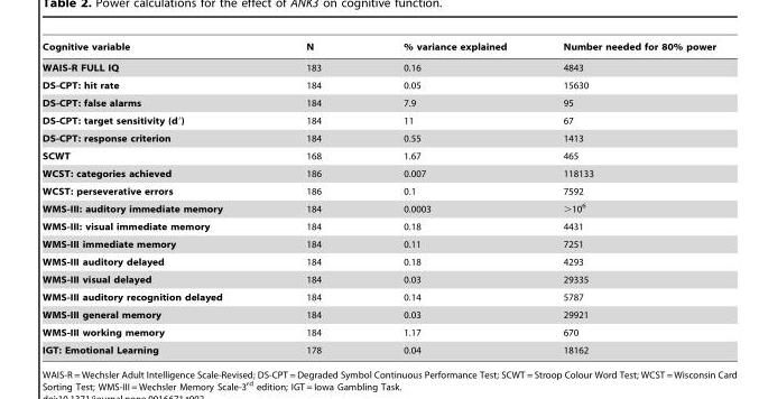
<table><thead><tr><td>Cognitive variable</td><td>N</td><td>% variance explained</td><td>Number needed for 80% power</td></tr></thead><tbody><tr><td>WAIS-R FULL IQ</td><td>183</td><td>0.16</td><td>4843</td></tr><tr><td>DS-CPT: hit rate</td><td>184</td><td>0.05</td><td>15630</td></tr><tr><td>DS-CPT: false alarms</td><td>184</td><td>7.9</td><td>95</td></tr><tr><td>DS-CPT: target sensitivity (d′)</td><td>184</td><td>11</td><td>67</td></tr><tr><td>DS-CPT: response criterion</td><td>184</td><td>0.55</td><td>1413</td></tr><tr><td>SCWT</td><td>168</td><td>1.67</td><td>465</td></tr><tr><td>WCST: categories achieved</td><td>186</td><td>0.007</td><td>118133</td></tr><tr><td>WCST: perseverative errors</td><td>186</td><td>0.1</td><td>7592</td></tr><tr><td>WMS-III: auditory immediate memory</td><td>184</td><td>0.0003</td><td>&gt;10<sup>6</sup></td></tr><tr><td>WMS-III: visual immediate memory</td><td>184</td><td>0.18</td><td>4431</td></tr><tr><td>WMS-III immediate memory</td><td>184</td><td>0.11</td><td>7251</td></tr><tr><td>WMS-III auditory delayed</td><td>184</td><td>0.18</td><td>4293</td></tr><tr><td>WMS-III visual delayed</td><td>184</td><td>0.03</td><td>29335</td></tr><tr><td>WMS-III auditory recognition delayed</td><td>184</td><td>0.14</td><td>5787</td></tr><tr><td>WMS-III general memory</td><td>184</td><td>0.03</td><td>29921</td></tr><tr><td>WMS-III working memory</td><td>184</td><td>1.17</td><td>670</td></tr><tr><td>IGT: Emotional Learning</td><td>178</td><td>0.04</td><td>18162</td></tr></tbody></table>